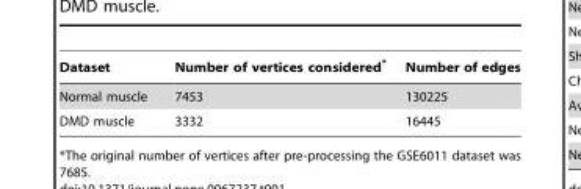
<table><thead><tr><td>Dataset</td><td>Number of vertices considered*</td><td>Number of edges</td></tr></thead><tbody><tr><td>Normal muscle</td><td>7453</td><td>130225</td></tr><tr><td>DMD muscle</td><td>3332</td><td>16445</td></tr></tbody></table>